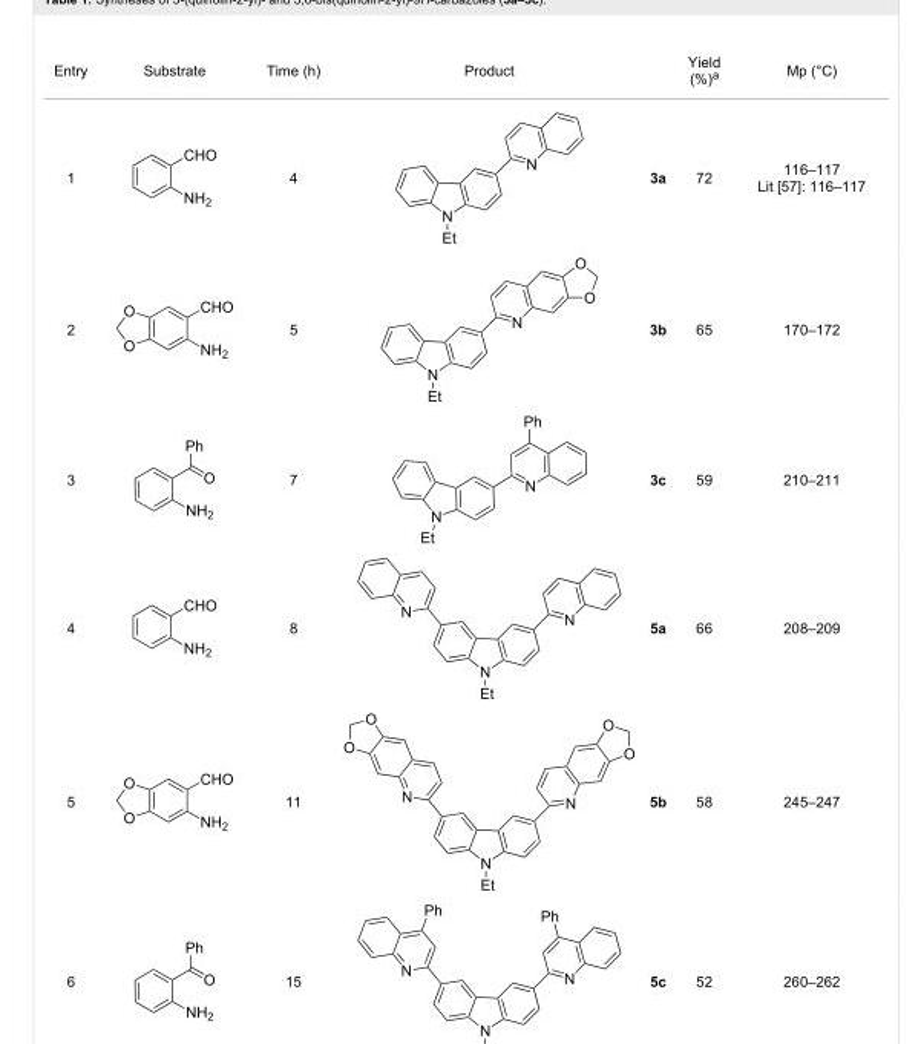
<table><tbody><tr><td>Entry</td><td>Substrate</td><td>Time (h)</td><td>Product</td><td></td><td>Yield (%)<sup>a</sup></td><td>Mp (°C)</td></tr><tr><td>1</td><td></td><td>4</td><td></td><td>3a</td><td>72</td><td>116–117 Lit [57]: 116–117</td></tr><tr><td>2</td><td></td><td>5</td><td></td><td>3b</td><td>65</td><td>170–172</td></tr><tr><td>3</td><td></td><td>7</td><td></td><td>3c</td><td>59</td><td>210–211</td></tr><tr><td>4</td><td></td><td>8</td><td></td><td>5a</td><td>66</td><td>208–209</td></tr><tr><td>5</td><td></td><td>11</td><td></td><td>5b</td><td>58</td><td>245–247</td></tr><tr><td>6</td><td></td><td>15</td><td></td><td>5c</td><td>52</td><td>260–262</td></tr></tbody></table>